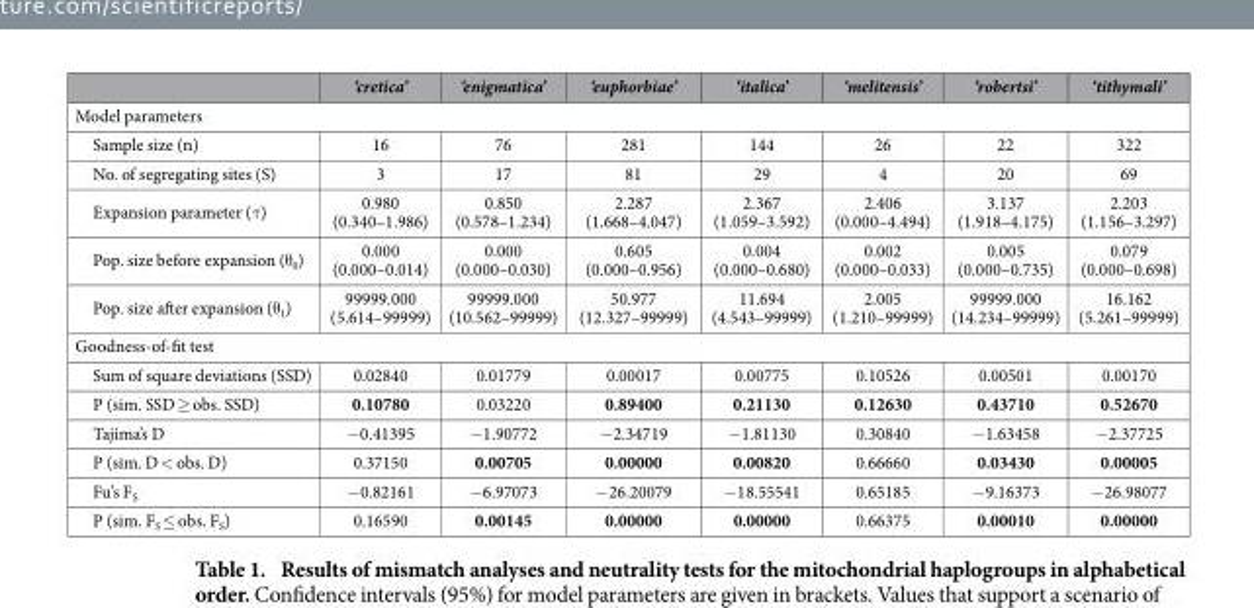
<table><thead><tr><td></td><td>‘cretica’</td><td>‘enigmatica’</td><td>‘euphorbiae’</td><td>‘italica’</td><td>‘melitensis’</td><td>‘robertsi’</td><td>‘tithymali’</td></tr></thead><tbody><tr><td colspan="8">Model parameters</td></tr><tr><td>Sample size (n)</td><td>16</td><td>76</td><td>281</td><td>144</td><td>26</td><td>22</td><td>322</td></tr><tr><td>No. of segregating sites (S)</td><td>3</td><td>17</td><td>81</td><td>29</td><td>4</td><td>20</td><td>69</td></tr><tr><td>Expansion parameter (τ )</td><td>0.980 (0.340–1.986)</td><td>0.850 (0.578–1.234)</td><td>2.287 (1.668–4.047)</td><td>2.367 (1.059–3.592)</td><td>2.406 (0.000–4.494)</td><td>3.137 (1.918–4.175)</td><td>2.203 (1.156–3.297)</td></tr><tr><td>Pop. size before expansion (θ <sub>0</sub>)</td><td>0.000 (0.000–0.014)</td><td>0.000 (0.000–0.030)</td><td>0.605 (0.000–0.956)</td><td>0.004 (0.000–0.680)</td><td>0.002 (0.000–0.033)</td><td>0.005 (0.000–0.735)</td><td>0.079 (0.000–0.698)</td></tr><tr><td>Pop. size after expansion (θ <sub>1</sub>)</td><td>99999.000 (5.614–99999)</td><td>99999.000 (10.562–99999)</td><td>50.977 (12.327–99999)</td><td>11.694 (4.543–99999)</td><td>2.005 (1.210–99999)</td><td>99999.000 (14.234–99999)</td><td>16.162 (5.261–99999)</td></tr><tr><td colspan="8">Goodness-of-fit test</td></tr><tr><td>Sum of square deviations (SSD)</td><td>0.02840</td><td>0.01779</td><td>0.00017</td><td>0.00775</td><td>0.10526</td><td>0.00501</td><td>0.00170</td></tr><tr><td>P (sim. SSD ≥ obs. SSD)</td><td>0.10780</td><td>0.03220</td><td>0.89400</td><td>0.21130</td><td>0.12630</td><td>0.43710</td><td>0.52670</td></tr><tr><td>Tajima’s D</td><td>− 0.41395</td><td>− 1.90772</td><td>− 2.34719</td><td>− 1.81130</td><td>0.30840</td><td>− 1.63458</td><td>− 2.37725</td></tr><tr><td>P (sim. D &lt; obs. D)</td><td>0.37150</td><td>0.00705</td><td>0.00000</td><td>0.00820</td><td>0.66660</td><td>0.03430</td><td>0.00005</td></tr><tr><td>Fu’s F<sub>S</sub></td><td>− 0.82161</td><td>− 6.97073</td><td>− 26.20079</td><td>− 18.55541</td><td>0.65185</td><td>− 9.16373</td><td>− 26.98077</td></tr><tr><td>P (sim. F<sub>S</sub> ≤ obs. F<sub>S</sub>)</td><td>0.16590</td><td>0.00145</td><td>0.00000</td><td>0.00000</td><td>0.66375</td><td>0.00010</td><td>0.00000</td></tr></tbody></table>